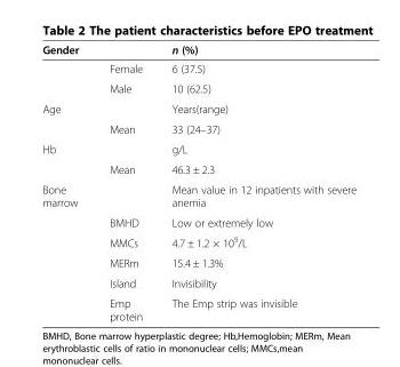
<table><thead><tr><td>Gender</td><td></td><td>n (%)</td></tr></thead><tbody><tr><td></td><td>Female</td><td>6 (37.5)</td></tr><tr><td></td><td>Male</td><td>10 (62.5)</td></tr><tr><td rowspan="2">Age</td><td></td><td>Years(range)</td></tr><tr><td>Mean</td><td>33 (24–37)</td></tr><tr><td rowspan="2">Hb</td><td></td><td>g/L</td></tr><tr><td>Mean</td><td>46.3 ± 2.3</td></tr><tr><td rowspan="6">Bone marrow</td><td></td><td>Mean value in 12 inpatients with severe anemia</td></tr><tr><td>BMHD</td><td>Low or extremely low</td></tr><tr><td>MMCs</td><td>4.7 ± 1.2 × 10<sup>9</sup>/L</td></tr><tr><td>MERm</td><td>15.4 ± 1.3%</td></tr><tr><td>Island</td><td>Invisibility</td></tr><tr><td>Emp protein</td><td>The Emp strip was invisible</td></tr></tbody></table>